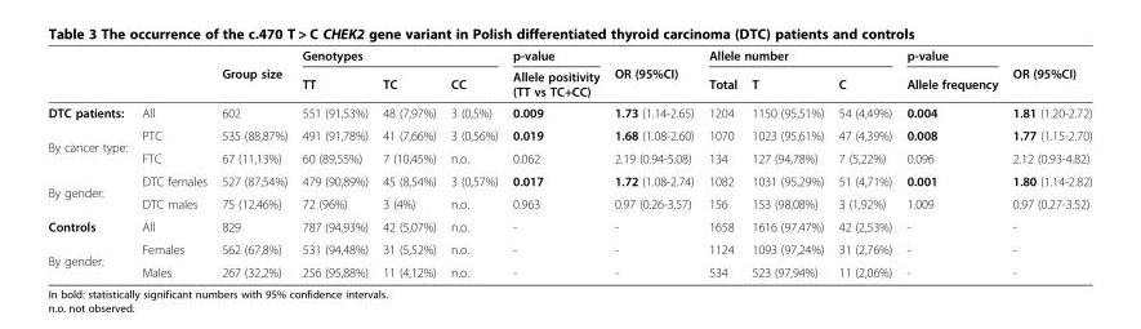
<table><thead><tr><td rowspan="2"></td><td rowspan="2"></td><td rowspan="2">Group size</td><td colspan="3">Genotypes</td><td rowspan="2">p-value Allele positivity (TT vs TC+CC)</td><td rowspan="2">OR (95%CI)</td><td colspan="3">Allele number</td><td rowspan="2">p-value Allele frequency</td><td rowspan="2">OR (95%CI)</td></tr><tr><td>TT</td><td>TC</td><td>CC</td><td>Total</td><td>T</td><td>C</td></tr></thead><tbody><tr><td>DTC patients:</td><td>All</td><td>602</td><td>551 (91,53%)</td><td>48 (7,97%)</td><td>3 (0,5%)</td><td>0.009</td><td>1.73 (1.14-2.65)</td><td>1204</td><td>1150 (95,51%)</td><td>54 (4,49%)</td><td>0.004</td><td>1.81 (1.20-2.72)</td></tr><tr><td rowspan="2">By cancer type:</td><td>PTC</td><td>535 (88,87%)</td><td>491 (91,78%)</td><td>41 (7,66%)</td><td>3 (0,56%)</td><td>0.019</td><td>1.68 (1.08-2.60)</td><td>1070</td><td>1023 (95,61%)</td><td>47 (4,39%)</td><td>0.008</td><td>1.77 (1.15-2.70)</td></tr><tr><td>FTC</td><td>67 (11,13%)</td><td>60 (89,55%)</td><td>7 (10,45%)</td><td>n.o.</td><td>0.062</td><td>2.19 (0.94-5.08)</td><td>134</td><td>127 (94,78%)</td><td>7 (5,22%)</td><td>0.096</td><td>2.12 (0.93-4.82)</td></tr><tr><td rowspan="2">By gender:</td><td>DTC females</td><td>527 (87,54%)</td><td>479 (90,89%)</td><td>45 (8,54%)</td><td>3 (0,57%)</td><td>0.017</td><td>1.72 (1.08-2.74)</td><td>1082</td><td>1031 (95,29%)</td><td>51 (4,71%)</td><td>0.001</td><td>1.80 (1.14-2.82)</td></tr><tr><td>DTC males</td><td>75 (12,46%)</td><td>72 (96%)</td><td>3 (4%)</td><td>n.o.</td><td>0.963</td><td>0.97 (0.26-3.57)</td><td>156</td><td>153 (98,08%)</td><td>3 (1,92%)</td><td>1.009</td><td>0.97 (0.27-3.52)</td></tr><tr><td>Controls</td><td>All</td><td>829</td><td>787 (94,93%)</td><td>42 (5,07%)</td><td>n.o.</td><td>-</td><td>-</td><td>1658</td><td>1616 (97,47%)</td><td>42 (2,53%)</td><td>-</td><td>-</td></tr><tr><td rowspan="2">By gender:</td><td>Females</td><td>562 (67,8%)</td><td>531 (94,48%)</td><td>31 (5,52%)</td><td>n.o.</td><td>-</td><td>-</td><td>1124</td><td>1093 (97,24%)</td><td>31 (2,76%)</td><td>-</td><td>-</td></tr><tr><td>Males</td><td>267 (32,2%)</td><td>256 (95,88%)</td><td>11 (4,12%)</td><td>n.o.</td><td>-</td><td>-</td><td>534</td><td>523 (97,94%)</td><td>11 (2,06%)</td><td>-</td><td>-</td></tr></tbody></table>